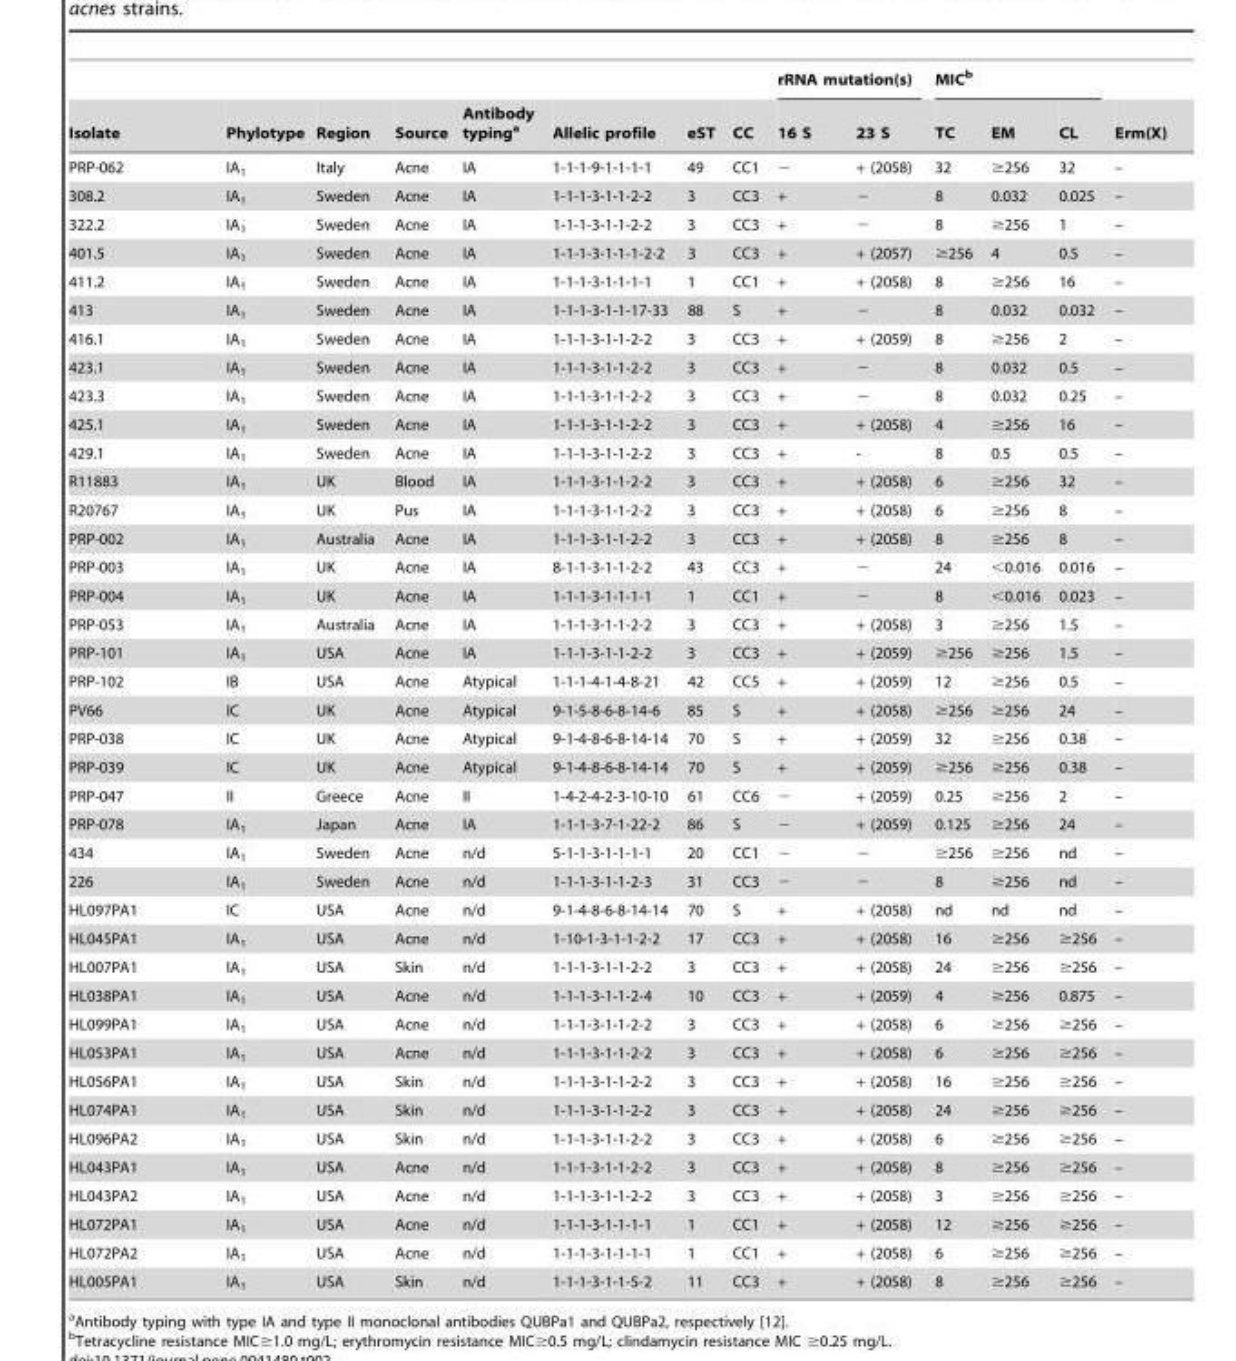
<table><thead><tr><td rowspan="2">Isolate</td><td rowspan="2">Phylotype</td><td rowspan="2">Region</td><td rowspan="2">Source</td><td rowspan="2">Antibody typing<sup>a</sup></td><td rowspan="2">Allelic profile</td><td rowspan="2">eST</td><td rowspan="2">CC</td><td colspan="2">rRNA mutation(s)</td><td colspan="3">MIC<sup>b</sup></td><td rowspan="2">Erm(X)</td></tr><tr><td>16 S</td><td>23 S</td><td>TC</td><td>EM</td><td>CL</td></tr></thead><tbody><tr><td>PRP-062</td><td>IA<sub>1</sub></td><td>Italy</td><td>Acne</td><td>IA</td><td>1-1-1-9-1-1-1-1</td><td>49</td><td>CC1</td><td>−</td><td>+ (2058)</td><td>32</td><td>≥256</td><td>32</td><td>–</td></tr><tr><td>308.2</td><td>IA<sub>1</sub></td><td>Sweden</td><td>Acne</td><td>IA</td><td>1-1-1-3-1-1-2-2</td><td>3</td><td>CC3</td><td>+</td><td>−</td><td>8</td><td>0.032</td><td>0.025</td><td>–</td></tr><tr><td>322.2</td><td>IA<sub>1</sub></td><td>Sweden</td><td>Acne</td><td>IA</td><td>1-1-1-3-1-1-2-2</td><td>3</td><td>CC3</td><td>+</td><td>−</td><td>8</td><td>≥256</td><td>1</td><td>–</td></tr><tr><td>401.5</td><td>IA<sub>1</sub></td><td>Sweden</td><td>Acne</td><td>IA</td><td>1-1-1-3-1-1-1-2-2</td><td>3</td><td>CC3</td><td>+</td><td>+ (2057)</td><td>≥256</td><td>4</td><td>0.5</td><td>–</td></tr><tr><td>411.2</td><td>IA<sub>1</sub></td><td>Sweden</td><td>Acne</td><td>IA</td><td>1-1-1-3-1-1-1-1</td><td>1</td><td>CC1</td><td>+</td><td>+ (2058)</td><td>8</td><td>≥256</td><td>16</td><td>–</td></tr><tr><td>413</td><td>IA<sub>1</sub></td><td>Sweden</td><td>Acne</td><td>IA</td><td>1-1-1-3-1-1-17-33</td><td>88</td><td>S</td><td>+</td><td>−</td><td>8</td><td>0.032</td><td>0.032</td><td>–</td></tr><tr><td>416.1</td><td>IA<sub>1</sub></td><td>Sweden</td><td>Acne</td><td>IA</td><td>1-1-1-3-1-1-2-2</td><td>3</td><td>CC3</td><td>+</td><td>+ (2059)</td><td>8</td><td>≥256</td><td>2</td><td>–</td></tr><tr><td>423.1</td><td>IA<sub>1</sub></td><td>Sweden</td><td>Acne</td><td>IA</td><td>1-1-1-3-1-1-2-2</td><td>3</td><td>CC3</td><td>+</td><td>−</td><td>8</td><td>0.032</td><td>0.5</td><td>–</td></tr><tr><td>423.3</td><td>IA<sub>1</sub></td><td>Sweden</td><td>Acne</td><td>IA</td><td>1-1-1-3-1-1-2-2</td><td>3</td><td>CC3</td><td>+</td><td>−</td><td>8</td><td>0.032</td><td>0.25</td><td>–</td></tr><tr><td>425.1</td><td>IA<sub>1</sub></td><td>Sweden</td><td>Acne</td><td>IA</td><td>1-1-1-3-1-1-2-2</td><td>3</td><td>CC3</td><td>+</td><td>+ (2058)</td><td>4</td><td>≥256</td><td>16</td><td>–</td></tr><tr><td>429.1</td><td>IA<sub>1</sub></td><td>Sweden</td><td>Acne</td><td>IA</td><td>1-1-1-3-1-1-2-2</td><td>3</td><td>CC3</td><td>+</td><td>-</td><td>8</td><td>0.5</td><td>0.5</td><td>–</td></tr><tr><td>R11883</td><td>IA<sub>1</sub></td><td>UK</td><td>Blood</td><td>IA</td><td>1-1-1-3-1-1-2-2</td><td>3</td><td>CC3</td><td>+</td><td>+ (2058)</td><td>6</td><td>≥256</td><td>32</td><td>–</td></tr><tr><td>R20767</td><td>IA<sub>1</sub></td><td>UK</td><td>Pus</td><td>IA</td><td>1-1-1-3-1-1-2-2</td><td>3</td><td>CC3</td><td>+</td><td>+ (2058)</td><td>6</td><td>≥256</td><td>8</td><td>–</td></tr><tr><td>PRP-002</td><td>IA<sub>1</sub></td><td>Australia</td><td>Acne</td><td>IA</td><td>1-1-1-3-1-1-2-2</td><td>3</td><td>CC3</td><td>+</td><td>+ (2058)</td><td>8</td><td>≥256</td><td>8</td><td>–</td></tr><tr><td>PRP-003</td><td>IA<sub>1</sub></td><td>UK</td><td>Acne</td><td>IA</td><td>8-1-1-3-1-1-2-2</td><td>43</td><td>CC3</td><td>+</td><td>−</td><td>24</td><td>&lt;0.016</td><td>0.016</td><td>–</td></tr><tr><td>PRP-004</td><td>IA<sub>1</sub></td><td>UK</td><td>Acne</td><td>IA</td><td>1-1-1-3-1-1-1-1</td><td>1</td><td>CC1</td><td>+</td><td>−</td><td>8</td><td>&lt;0.016</td><td>0.023</td><td>–</td></tr><tr><td>PRP-053</td><td>IA<sub>1</sub></td><td>Australia</td><td>Acne</td><td>IA</td><td>1-1-1-3-1-1-2-2</td><td>3</td><td>CC3</td><td>+</td><td>+ (2058)</td><td>3</td><td>≥256</td><td>1.5</td><td>–</td></tr><tr><td>PRP-101</td><td>IA<sub>1</sub></td><td>USA</td><td>Acne</td><td>IA</td><td>1-1-1-3-1-1-2-2</td><td>3</td><td>CC3</td><td>+</td><td>+ (2059)</td><td>≥256</td><td>≥256</td><td>1.5</td><td>–</td></tr><tr><td>PRP-102</td><td>IB</td><td>USA</td><td>Acne</td><td>Atypical</td><td>1-1-1-4-1-4-8-21</td><td>42</td><td>CC5</td><td>+</td><td>+ (2059)</td><td>12</td><td>≥256</td><td>0.5</td><td>–</td></tr><tr><td>PV66</td><td>IC</td><td>UK</td><td>Acne</td><td>Atypical</td><td>9-1-5-8-6-8-14-6</td><td>85</td><td>S</td><td>+</td><td>+ (2058)</td><td>≥256</td><td>≥256</td><td>24</td><td>–</td></tr><tr><td>PRP-038</td><td>IC</td><td>UK</td><td>Acne</td><td>Atypical</td><td>9-1-4-8-6-8-14-14</td><td>70</td><td>S</td><td>+</td><td>+ (2059)</td><td>32</td><td>≥256</td><td>0.38</td><td>–</td></tr><tr><td>PRP-039</td><td>IC</td><td>UK</td><td>Acne</td><td>Atypical</td><td>9-1-4-8-6-8-14-14</td><td>70</td><td>S</td><td>+</td><td>+ (2059)</td><td>≥256</td><td>≥256</td><td>0.38</td><td>–</td></tr><tr><td>PRP-047</td><td>II</td><td>Greece</td><td>Acne</td><td>II</td><td>1-4-2-4-2-3-10-10</td><td>61</td><td>CC6</td><td>−</td><td>+ (2059)</td><td>0.25</td><td>≥256</td><td>2</td><td>–</td></tr><tr><td>PRP-078</td><td>IA<sub>1</sub></td><td>Japan</td><td>Acne</td><td>IA</td><td>1-1-1-3-7-1-22-2</td><td>86</td><td>S</td><td>−</td><td>+ (2059)</td><td>0.125</td><td>≥256</td><td>24</td><td>–</td></tr><tr><td>434</td><td>IA<sub>1</sub></td><td>Sweden</td><td>Acne</td><td>n/d</td><td>5-1-1-3-1-1-1-1</td><td>20</td><td>CC1</td><td>−</td><td>−</td><td>≥256</td><td>≥256</td><td>nd</td><td>–</td></tr><tr><td>226</td><td>IA<sub>1</sub></td><td>Sweden</td><td>Acne</td><td>n/d</td><td>1-1-1-3-1-1-2-3</td><td>31</td><td>CC3</td><td>−</td><td>−</td><td>8</td><td>≥256</td><td>nd</td><td>–</td></tr><tr><td>HL097PA1</td><td>IC</td><td>USA</td><td>Acne</td><td>n/d</td><td>9-1-4-8-6-8-14-14</td><td>70</td><td>S</td><td>+</td><td>+ (2058)</td><td>nd</td><td>nd</td><td>nd</td><td>–</td></tr><tr><td>HL045PA1</td><td>IA<sub>1</sub></td><td>USA</td><td>Acne</td><td>n/d</td><td>1-10-1-3-1-1-2-2</td><td>17</td><td>CC3</td><td>+</td><td>+ (2058)</td><td>16</td><td>≥256</td><td>≥256</td><td>–</td></tr><tr><td>HL007PA1</td><td>IA<sub>1</sub></td><td>USA</td><td>Skin</td><td>n/d</td><td>1-1-1-3-1-1-2-2</td><td>3</td><td>CC3</td><td>+</td><td>+ (2058)</td><td>24</td><td>≥256</td><td>≥256</td><td>–</td></tr><tr><td>HL038PA1</td><td>IA<sub>1</sub></td><td>USA</td><td>Acne</td><td>n/d</td><td>1-1-1-3-1-1-2-4</td><td>10</td><td>CC3</td><td>+</td><td>+ (2059)</td><td>4</td><td>≥256</td><td>0.875</td><td>–</td></tr><tr><td>HL099PA1</td><td>IA<sub>1</sub></td><td>USA</td><td>Acne</td><td>n/d</td><td>1-1-1-3-1-1-2-2</td><td>3</td><td>CC3</td><td>+</td><td>+ (2058)</td><td>6</td><td>≥256</td><td>≥256</td><td>–</td></tr><tr><td>HL053PA1</td><td>IA<sub>1</sub></td><td>USA</td><td>Acne</td><td>n/d</td><td>1-1-1-3-1-1-2-2</td><td>3</td><td>CC3</td><td>+</td><td>+ (2058)</td><td>6</td><td>≥256</td><td>≥256</td><td>–</td></tr><tr><td>HL056PA1</td><td>IA<sub>1</sub></td><td>USA</td><td>Skin</td><td>n/d</td><td>1-1-1-3-1-1-2-2</td><td>3</td><td>CC3</td><td>+</td><td>+ (2058)</td><td>16</td><td>≥256</td><td>≥256</td><td>–</td></tr><tr><td>HL074PA1</td><td>IA<sub>1</sub></td><td>USA</td><td>Skin</td><td>n/d</td><td>1-1-1-3-1-1-2-2</td><td>3</td><td>CC3</td><td>+</td><td>+ (2058)</td><td>24</td><td>≥256</td><td>≥256</td><td>–</td></tr><tr><td>HL096PA2</td><td>IA<sub>1</sub></td><td>USA</td><td>Skin</td><td>n/d</td><td>1-1-1-3-1-1-2-2</td><td>3</td><td>CC3</td><td>+</td><td>+ (2058)</td><td>6</td><td>≥256</td><td>≥256</td><td>–</td></tr><tr><td>HL043PA1</td><td>IA<sub>1</sub></td><td>USA</td><td>Acne</td><td>n/d</td><td>1-1-1-3-1-1-2-2</td><td>3</td><td>CC3</td><td>+</td><td>+ (2058)</td><td>8</td><td>≥256</td><td>≥256</td><td>–</td></tr><tr><td>HL043PA2</td><td>IA<sub>1</sub></td><td>USA</td><td>Acne</td><td>n/d</td><td>1-1-1-3-1-1-2-2</td><td>3</td><td>CC3</td><td>+</td><td>+ (2058)</td><td>3</td><td>≥256</td><td>≥256</td><td>–</td></tr><tr><td>HL072PA1</td><td>IA<sub>1</sub></td><td>USA</td><td>Acne</td><td>n/d</td><td>1-1-1-3-1-1-1-1</td><td>1</td><td>CC1</td><td>+</td><td>+ (2058)</td><td>12</td><td>≥256</td><td>≥256</td><td>–</td></tr><tr><td>HL072PA2</td><td>IA<sub>1</sub></td><td>USA</td><td>Acne</td><td>n/d</td><td>1-1-1-3-1-1-1-1</td><td>1</td><td>CC1</td><td>+</td><td>+ (2058)</td><td>6</td><td>≥256</td><td>≥256</td><td>–</td></tr><tr><td>HL005PA1</td><td>IA<sub>1</sub></td><td>USA</td><td>Skin</td><td>n/d</td><td>1-1-1-3-1-1-5-2</td><td>11</td><td>CC3</td><td>+</td><td>+ (2058)</td><td>8</td><td>≥256</td><td>≥256</td><td>–</td></tr></tbody></table>